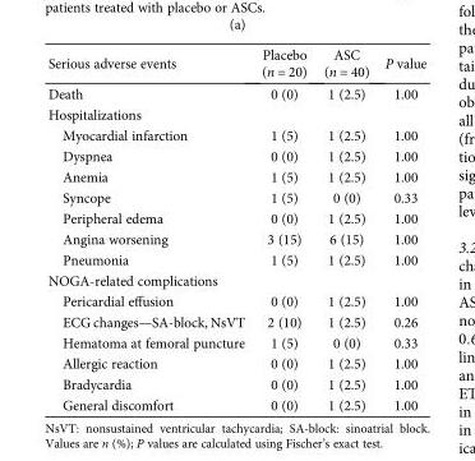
<table><thead><tr><td>Serious adverse events</td><td>Placebo (n = 20)</td><td>ASC (n = 40)</td><td>P value</td></tr></thead><tbody><tr><td>Death</td><td>0 (0)</td><td>1 (2.5)</td><td>1.00</td></tr><tr><td colspan="4">Hospitalizations</td></tr><tr><td>Myocardial infarction</td><td>1 (5)</td><td>1 (2.5)</td><td>1.00</td></tr><tr><td>Dyspnea</td><td>0 (0)</td><td>1 (2.5)</td><td>1.00</td></tr><tr><td>Anemia</td><td>1 (5)</td><td>1 (2.5)</td><td>1.00</td></tr><tr><td>Syncope</td><td>1 (5)</td><td>0 (0)</td><td>0.33</td></tr><tr><td>Peripheral edema</td><td>0 (0)</td><td>1 (2.5)</td><td>1.00</td></tr><tr><td>Angina worsening</td><td>3 (15)</td><td>6 (15)</td><td>1.00</td></tr><tr><td>Pneumonia</td><td>1 (5)</td><td>1 (2.5)</td><td>1.00</td></tr><tr><td colspan="4">NOGA-related complications</td></tr><tr><td>Pericardial effusion</td><td>0 (0)</td><td>1 (2.5)</td><td>1.00</td></tr><tr><td>ECG changes—SA-block, NsVT</td><td>2 (10)</td><td>1 (2.5)</td><td>0.26</td></tr><tr><td>Hematoma at femoral puncture</td><td>1 (5)</td><td>0 (0)</td><td>0.33</td></tr><tr><td>Allergic reaction</td><td>0 (0)</td><td>1 (2.5)</td><td>1.00</td></tr><tr><td>Bradycardia</td><td>0 (0)</td><td>1 (2.5)</td><td>1.00</td></tr><tr><td>General discomfort</td><td>0 (0)</td><td>1 (2.5)</td><td>1.00</td></tr></tbody></table>